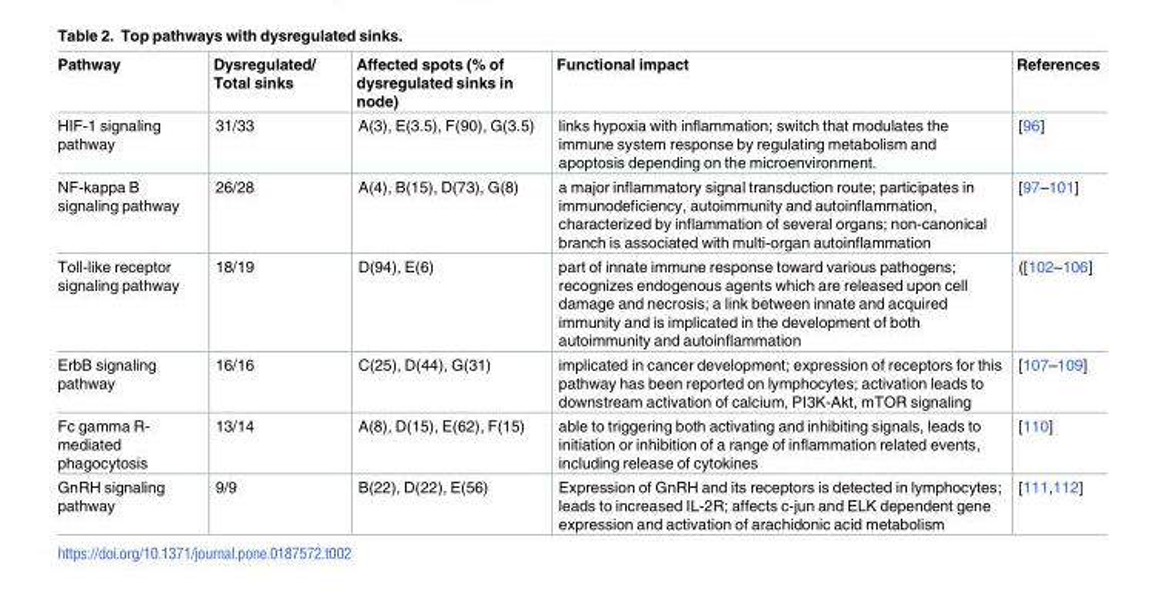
<table><thead><tr><td>Pathway</td><td>Dysregulated/ Total sinks</td><td>Affected spots (% of dysregulated sinks in node)</td><td>Functional impact</td><td>References</td></tr></thead><tbody><tr><td>HIF-1 signaling pathway</td><td>31/33</td><td>A(3), E(3.5), F(90), G(3.5)</td><td>links hypoxia with inflammation; switch that modulates the immune system response by regulating metabolism and apoptosis depending on the microenvironment.</td><td>[96]</td></tr><tr><td>NF-kappa B signaling pathway</td><td>26/28</td><td>A(4), B(15), D(73), G(8)</td><td>a major inflammatory signal transduction route; participates in immunodeficiency, autoimmunity and autoinflammation, characterized by inflammation of several organs; non-canonical branch is associated with multi-organ autoinflammation</td><td>[97–101]</td></tr><tr><td>Toll-like receptor signaling pathway</td><td>18/19</td><td>D(94), E(6)</td><td>part of innate immune response toward various pathogens; recognizes endogenous agents which are released upon cell damage and necrosis; a link between innate and acquired immunity and is implicated in the development of both autoimmunity and autoinflammation</td><td>([102–106]</td></tr><tr><td>ErbB signaling pathway</td><td>16/16</td><td>C(25), D(44), G(31)</td><td>implicated in cancer development; expression of receptors for this pathway has been reported on lymphocytes; activation leads to downstream activation of calcium, PI3K-Akt, mTOR signaling</td><td>[107–109]</td></tr><tr><td>Fc gamma R- mediated phagocytosis</td><td>13/14</td><td>A(8), D(15), E(62), F(15)</td><td>able to triggering both activating and inhibiting signals, leads to initiation or inhibition of a range of inflammation related events, including release of cytokines</td><td>[110]</td></tr><tr><td>GnRH signaling pathway</td><td>9/9</td><td>B(22), D(22), E(56)</td><td>Expression of GnRH and its receptors is detected in lymphocytes; leads to increased IL-2R; affects c-jun and ELK dependent gene expression and activation of arachidonic acid metabolism</td><td>[111,112]</td></tr></tbody></table>